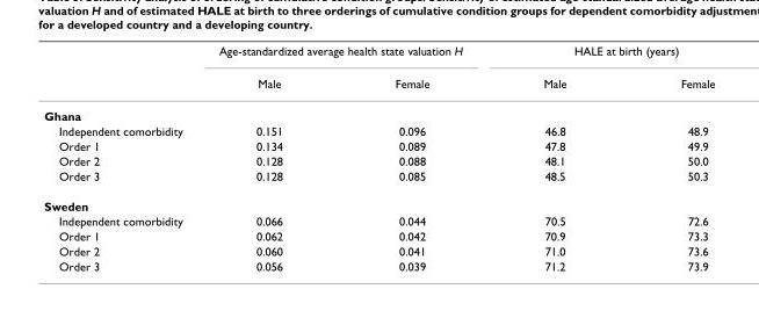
<table><thead><tr><td rowspan="2"></td><td colspan="2">Age-standardized average health state valuation H</td><td colspan="2">HALE at birth (years)</td></tr><tr><td>Male</td><td>Female</td><td>Male</td><td>Female</td></tr></thead><tbody><tr><td colspan="5">Ghana</td></tr><tr><td>Independent comorbidity</td><td>0.151</td><td>0.096</td><td>46.8</td><td>48.9</td></tr><tr><td>Order 1</td><td>0.134</td><td>0.089</td><td>47.8</td><td>49.9</td></tr><tr><td>Order 2</td><td>0.128</td><td>0.088</td><td>48.1</td><td>50.0</td></tr><tr><td>Order 3</td><td>0.128</td><td>0.085</td><td>48.5</td><td>50.3</td></tr><tr><td colspan="5">Sweden</td></tr><tr><td>Independent comorbidity</td><td>0.066</td><td>0.044</td><td>70.5</td><td>72.6</td></tr><tr><td>Order 1</td><td>0.062</td><td>0.042</td><td>70.9</td><td>73.3</td></tr><tr><td>Order 2</td><td>0.060</td><td>0.041</td><td>71.0</td><td>73.6</td></tr><tr><td>Order 3</td><td>0.056</td><td>0.039</td><td>71.2</td><td>73.9</td></tr></tbody></table>